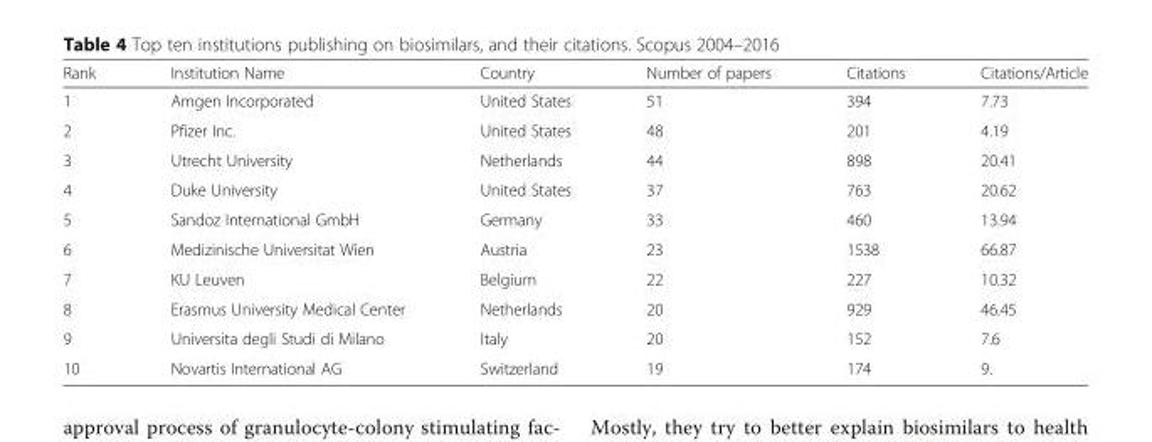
<table><thead><tr><td>Rank</td><td>Institution Name</td><td>Country</td><td>Number of papers</td><td>Citations</td><td>Citations/Article</td></tr></thead><tbody><tr><td>1</td><td>Amgen Incorporated</td><td>United States</td><td>51</td><td>394</td><td>7.73</td></tr><tr><td>2</td><td>Pfizer Inc.</td><td>United States</td><td>48</td><td>201</td><td>4.19</td></tr><tr><td>3</td><td>Utrecht University</td><td>Netherlands</td><td>44</td><td>898</td><td>20.41</td></tr><tr><td>4</td><td>Duke University</td><td>United States</td><td>37</td><td>763</td><td>20.62</td></tr><tr><td>5</td><td>Sandoz International GmbH</td><td>Germany</td><td>33</td><td>460</td><td>13.94</td></tr><tr><td>6</td><td>Medizinische Universitat Wien</td><td>Austria</td><td>23</td><td>1538</td><td>66.87</td></tr><tr><td>7</td><td>KU Leuven</td><td>Belgium</td><td>22</td><td>227</td><td>10.32</td></tr><tr><td>8</td><td>Erasmus University Medical Center</td><td>Netherlands</td><td>20</td><td>929</td><td>46.45</td></tr><tr><td>9</td><td>Universita degli Studi di Milano</td><td>Italy</td><td>20</td><td>152</td><td>7.6</td></tr><tr><td>10</td><td>Novartis International AG</td><td>Switzerland</td><td>19</td><td>174</td><td>9.</td></tr></tbody></table>